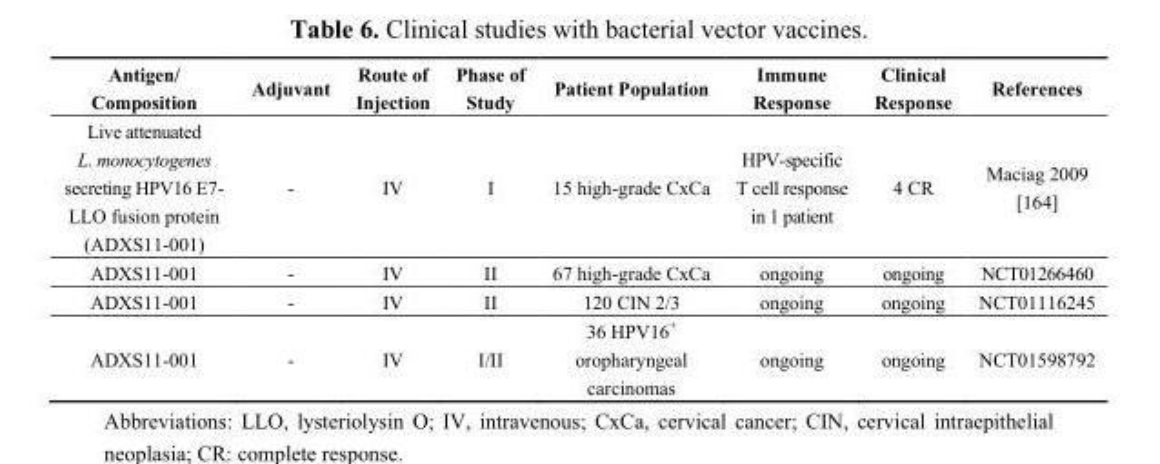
<table><thead><tr><td>Antigen/ Composition</td><td>Adjuvant</td><td>Route of Injection</td><td>Phase of Study</td><td>Patient Population</td><td>Immune Response</td><td>Clinical Response</td><td>References</td></tr></thead><tbody><tr><td>Live attenuated L. monocytogenes secreting HPV16 E7- LLO fusion protein (ADXS11-001)</td><td>-</td><td>IV</td><td>I</td><td>15 high-grade CxCa</td><td>HPV-specific T cell response in 1 patient</td><td>4 CR</td><td>Maciag 2009 [164]</td></tr><tr><td>ADXS11-001</td><td>-</td><td>IV</td><td>II</td><td>67 high-grade CxCa</td><td>ongoing</td><td>ongoing</td><td>NCT01266460</td></tr><tr><td>ADXS11-001</td><td>-</td><td>IV</td><td>II</td><td>120 CIN 2/3</td><td>ongoing</td><td>ongoing</td><td>NCT01116245</td></tr><tr><td>ADXS11-001</td><td>-</td><td>IV</td><td>I/II</td><td>36 HPV16<sup>+</sup> oropharyngeal carcinomas</td><td>ongoing</td><td>ongoing</td><td>NCT01598792</td></tr></tbody></table>